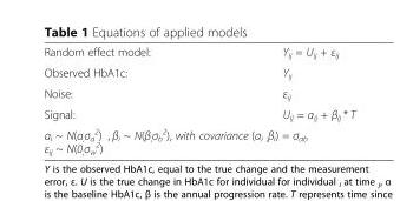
<table><tbody><tr><td>Random effect model:</td><td>Y<sub>ij</sub> = U<sub>ij</sub> + ε<sub>ij</sub></td></tr><tr><td>Observed HbA1c:</td><td>Y<sub>ij</sub></td></tr><tr><td>Noise:</td><td>ε<sub>ij</sub></td></tr><tr><td>Signal:</td><td>U<sub>ij</sub> = α<sub>ij</sub> + β<sub>ij</sub> * T</td></tr><tr><td colspan="2">αi ~ N(α,σa 2) , βi ~ N(β,σb 2), with covariance (αi ,βi) = σab εij ~ N(0,σw 2)</td></tr></tbody></table>